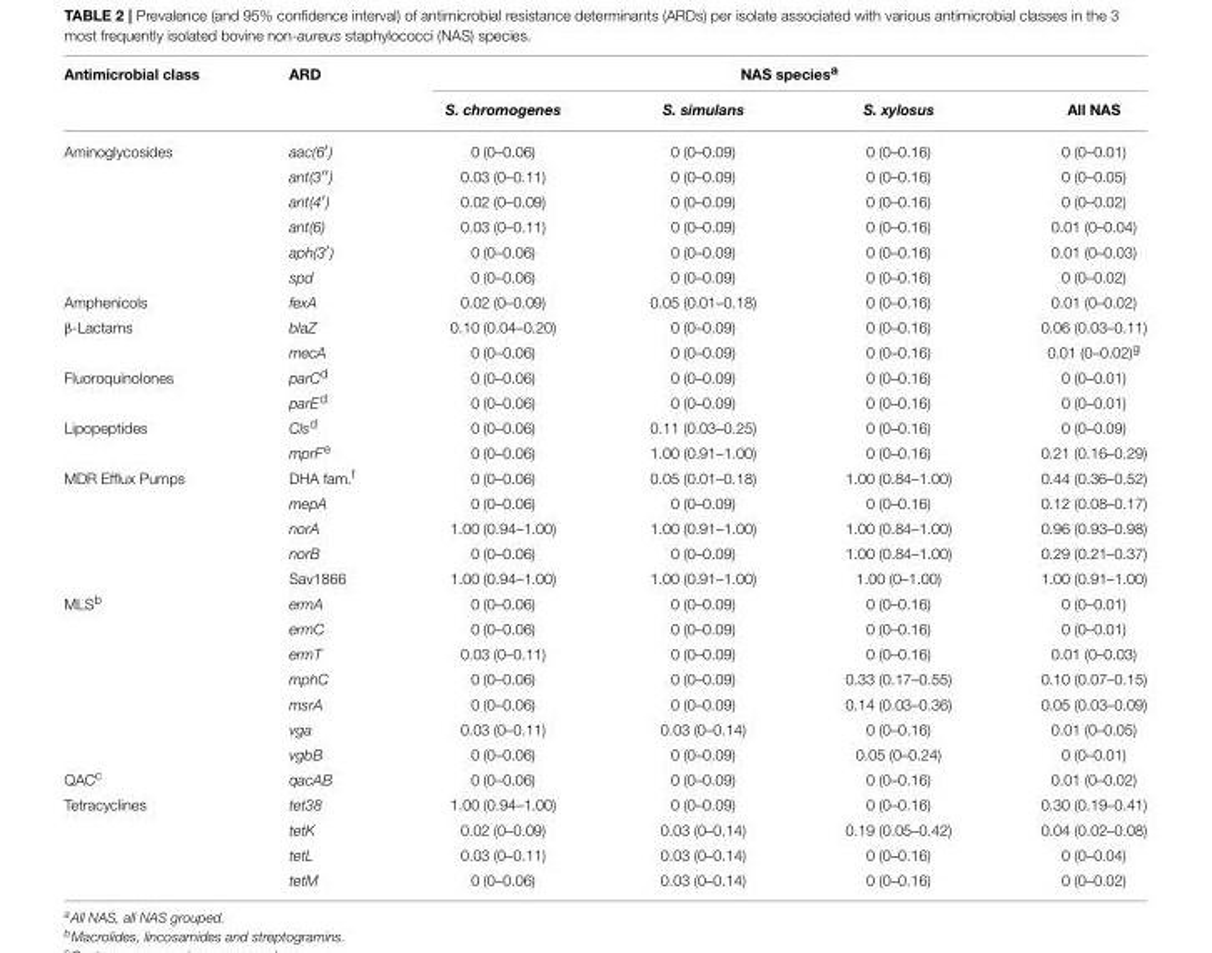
<table><thead><tr><td rowspan="2">Antimicrobial class</td><td rowspan="2">ARD</td><td colspan="4">NAS species<sup>a</sup></td></tr><tr><td>S. chromogenes</td><td>S. simulans</td><td>S. xylosus</td><td>All NAS</td></tr></thead><tbody><tr><td rowspan="6">Aminoglycosides</td><td>aac(6′)</td><td>0 (0–0.06)</td><td>0 (0–0.09)</td><td>0 (0–0.16)</td><td>0 (0–0.01)</td></tr><tr><td>ant(3′′)</td><td>0.03 (0–0.11)</td><td>0 (0–0.09)</td><td>0 (0–0.16)</td><td>0 (0–0.05)</td></tr><tr><td>ant(4′)</td><td>0.02 (0–0.09)</td><td>0 (0–0.09)</td><td>0 (0–0.16)</td><td>0 (0–0.02)</td></tr><tr><td>ant(6)</td><td>0.03 (0–0.11)</td><td>0 (0–0.09)</td><td>0 (0–0.16)</td><td>0.01 (0–0.04)</td></tr><tr><td>aph(3′)</td><td>0 (0–0.06)</td><td>0 (0–0.09)</td><td>0 (0–0.16)</td><td>0.01 (0–0.03)</td></tr><tr><td>spd</td><td>0 (0–0.06)</td><td>0 (0–0.09)</td><td>0 (0–0.16)</td><td>0 (0–0.02)</td></tr><tr><td>Amphenicols</td><td>fexA</td><td>0.02 (0–0.09)</td><td>0.05 (0.01–0.18)</td><td>0 (0–0.16)</td><td>0.01 (0–0.02)</td></tr><tr><td rowspan="2">β-Lactams</td><td>blaZ</td><td>0.10 (0.04–0.20)</td><td>0 (0–0.09)</td><td>0 (0–0.16)</td><td>0.06 (0.03–0.11)</td></tr><tr><td>mecA</td><td>0 (0–0.06)</td><td>0 (0–0.09)</td><td>0 (0–0.16)</td><td>0.01 (0–0.02)<sup>g</sup></td></tr><tr><td rowspan="2">Fluoroquinolones</td><td>parC<sup>d</sup></td><td>0 (0–0.06)</td><td>0 (0–0.09)</td><td>0 (0–0.16)</td><td>0 (0–0.01)</td></tr><tr><td>parE<sup>d</sup></td><td>0 (0–0.06)</td><td>0 (0–0.09)</td><td>0 (0–0.16)</td><td>0 (0–0.01)</td></tr><tr><td rowspan="2">Lipopeptides</td><td>Cls<sup>d</sup></td><td>0 (0–0.06)</td><td>0.11 (0.03–0.25)</td><td>0 (0–0.16)</td><td>0 (0–0.09)</td></tr><tr><td>mprF<sup>e</sup></td><td>0 (0–0.06)</td><td>1.00 (0.91–1.00)</td><td>0 (0–0.16)</td><td>0.21 (0.16–0.29)</td></tr><tr><td rowspan="5">MDR Efflux Pumps</td><td>DHA fam.<sup>f</sup></td><td>0 (0–0.06)</td><td>0.05 (0.01–0.18)</td><td>1.00 (0.84–1.00)</td><td>0.44 (0.36–0.52)</td></tr><tr><td>mepA</td><td>0 (0–0.06)</td><td>0 (0–0.09)</td><td>0 (0–0.16)</td><td>0.12 (0.08–0.17)</td></tr><tr><td>norA</td><td>1.00 (0.94–1.00)</td><td>1.00 (0.91–1.00)</td><td>1.00 (0.84–1.00)</td><td>0.96 (0.93–0.98)</td></tr><tr><td>norB</td><td>0 (0–0.06)</td><td>0 (0–0.09)</td><td>1.00 (0.84–1.00)</td><td>0.29 (0.21–0.37)</td></tr><tr><td>Sav1866</td><td>1.00 (0.94–1.00)</td><td>1.00 (0.91–1.00)</td><td>1.00 (0–1.00)</td><td>1.00 (0.91–1.00)</td></tr><tr><td rowspan="7">MLS<sup>b</sup></td><td>ermA</td><td>0 (0–0.06)</td><td>0 (0–0.09)</td><td>0 (0–0.16)</td><td>0 (0–0.01)</td></tr><tr><td>ermC</td><td>0 (0–0.06)</td><td>0 (0–0.09)</td><td>0 (0–0.16)</td><td>0 (0–0.01)</td></tr><tr><td>ermT</td><td>0.03 (0–0.11)</td><td>0 (0–0.09)</td><td>0 (0–0.16)</td><td>0.01 (0–0.03)</td></tr><tr><td>mphC</td><td>0 (0–0.06)</td><td>0 (0–0.09)</td><td>0.33 (0.17–0.55)</td><td>0.10 (0.07–0.15)</td></tr><tr><td>msrA</td><td>0 (0–0.06)</td><td>0 (0–0.09)</td><td>0.14 (0.03–0.36)</td><td>0.05 (0.03–0.09)</td></tr><tr><td>vga</td><td>0.03 (0–0.11)</td><td>0.03 (0–0.14)</td><td>0 (0–0.16)</td><td>0.01 (0–0.05)</td></tr><tr><td>vgbB</td><td>0 (0–0.06)</td><td>0 (0–0.09)</td><td>0.05 (0–0.24)</td><td>0 (0–0.01)</td></tr><tr><td>QAC<sup>c</sup></td><td>qacAB</td><td>0 (0–0.06)</td><td>0 (0–0.09)</td><td>0 (0–0.16)</td><td>0.01 (0–0.02)</td></tr><tr><td rowspan="4">Tetracyclines</td><td>tet38</td><td>1.00 (0.94–1.00)</td><td>0 (0–0.09)</td><td>0 (0–0.16)</td><td>0.30 (0.19–0.41)</td></tr><tr><td>tetK</td><td>0.02 (0–0.09)</td><td>0.03 (0–0.14)</td><td>0.19 (0.05–0.42)</td><td>0.04 (0.02–0.08)</td></tr><tr><td>tetL</td><td>0.03 (0–0.11)</td><td>0.03 (0–0.14)</td><td>0 (0–0.16)</td><td>0 (0–0.04)</td></tr><tr><td>tetM</td><td>0 (0–0.06)</td><td>0.03 (0–0.14)</td><td>0 (0–0.16)</td><td>0 (0–0.02)</td></tr></tbody></table>